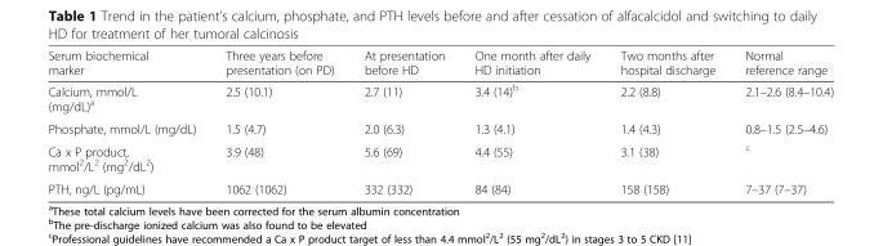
<table><thead><tr><td>Serum biochemical marker</td><td>Three years before presentation (on PD)</td><td>At presentation before HD</td><td>One month after daily HD initiation</td><td>Two months after hospital discharge</td><td>Normal reference range</td></tr></thead><tbody><tr><td>Calcium, mmol/L (mg/dL)<sup>a</sup></td><td>2.5 (10.1)</td><td>2.7 (11)</td><td>3.4 (14)<sup>b</sup></td><td>2.2 (8.8)</td><td>2.1–2.6 (8.4–10.4)</td></tr><tr><td>Phosphate, mmol/L (mg/dL)</td><td>1.5 (4.7)</td><td>2.0 (6.3)</td><td>1.3 (4.1)</td><td>1.4 (4.3)</td><td>0.8–1.5 (2.5–4.6)</td></tr><tr><td>Ca x P product, mmol<sup>2</sup>/L<sup>2</sup> (mg<sup>2</sup>/dL<sup>2</sup>)</td><td>3.9 (48)</td><td>5.6 (69)</td><td>4.4 (55)</td><td>3.1 (38)</td><td><sup>c</sup></td></tr><tr><td>PTH, ng/L (pg/mL)</td><td>1062 (1062)</td><td>332 (332)</td><td>84 (84)</td><td>158 (158)</td><td>7–37 (7–37)</td></tr></tbody></table>